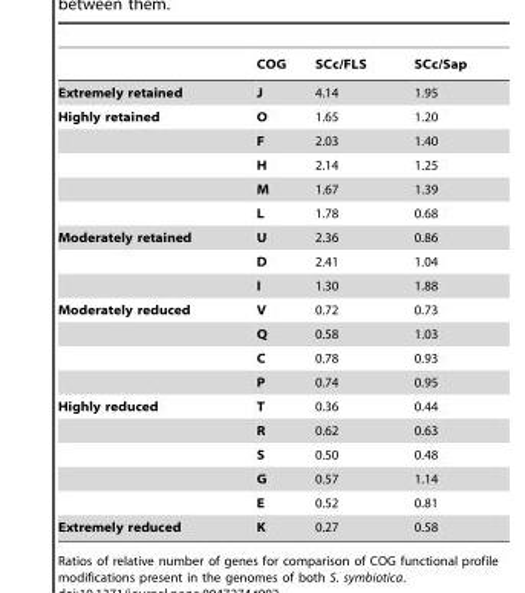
<table><thead><tr><td></td><td>COG</td><td>SCc/FLS</td><td>SCc/Sap</td></tr></thead><tbody><tr><td>Extremely retained</td><td>J</td><td>4.14</td><td>1.95</td></tr><tr><td rowspan="5">Highly retained</td><td>O</td><td>1.65</td><td>1.20</td></tr><tr><td>F</td><td>2.03</td><td>1.40</td></tr><tr><td>H</td><td>2.14</td><td>1.25</td></tr><tr><td>M</td><td>1.67</td><td>1.39</td></tr><tr><td>L</td><td>1.78</td><td>0.68</td></tr><tr><td rowspan="3">Moderately retained</td><td>U</td><td>2.36</td><td>0.86</td></tr><tr><td>D</td><td>2.41</td><td>1.04</td></tr><tr><td>I</td><td>1.30</td><td>1.88</td></tr><tr><td rowspan="4">Moderately reduced</td><td>V</td><td>0.72</td><td>0.73</td></tr><tr><td>Q</td><td>0.58</td><td>1.03</td></tr><tr><td>C</td><td>0.78</td><td>0.93</td></tr><tr><td>P</td><td>0.74</td><td>0.95</td></tr><tr><td rowspan="5">Highly reduced</td><td>T</td><td>0.36</td><td>0.44</td></tr><tr><td>R</td><td>0.62</td><td>0.63</td></tr><tr><td>S</td><td>0.50</td><td>0.48</td></tr><tr><td>G</td><td>0.57</td><td>1.14</td></tr><tr><td>E</td><td>0.52</td><td>0.81</td></tr><tr><td>Extremely reduced</td><td>K</td><td>0.27</td><td>0.58</td></tr></tbody></table>